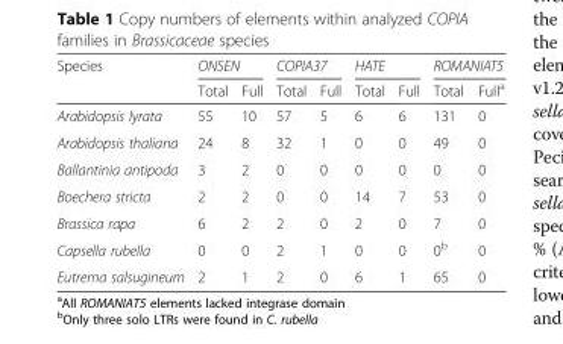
<table><thead><tr><td rowspan="2">Species</td><td colspan="2">ONSEN</td><td colspan="2">COPIA37</td><td colspan="2">HATE</td><td colspan="2">ROMANIAT5</td></tr><tr><td>Total</td><td>Full</td><td>Total</td><td>Full</td><td>Total</td><td>Full</td><td>Total</td><td>Full<sup>a</sup></td></tr></thead><tbody><tr><td>Arabidopsis lyrata</td><td>55</td><td>10</td><td>57</td><td>5</td><td>6</td><td>6</td><td>131</td><td>0</td></tr><tr><td>Arabidopsis thaliana</td><td>24</td><td>8</td><td>32</td><td>1</td><td>0</td><td>0</td><td>49</td><td>0</td></tr><tr><td>Ballantinia antipoda</td><td>3</td><td>2</td><td>0</td><td>0</td><td>0</td><td>0</td><td>0</td><td>0</td></tr><tr><td>Boechera stricta</td><td>2</td><td>2</td><td>0</td><td>0</td><td>14</td><td>7</td><td>53</td><td>0</td></tr><tr><td>Brassica rapa</td><td>6</td><td>2</td><td>2</td><td>0</td><td>2</td><td>0</td><td>7</td><td>0</td></tr><tr><td>Capsella rubella</td><td>0</td><td>0</td><td>2</td><td>1</td><td>0</td><td>0</td><td>0<sup>b</sup></td><td>0</td></tr><tr><td>Eutrema salsugineum</td><td>2</td><td>1</td><td>2</td><td>0</td><td>6</td><td>1</td><td>65</td><td>0</td></tr></tbody></table>